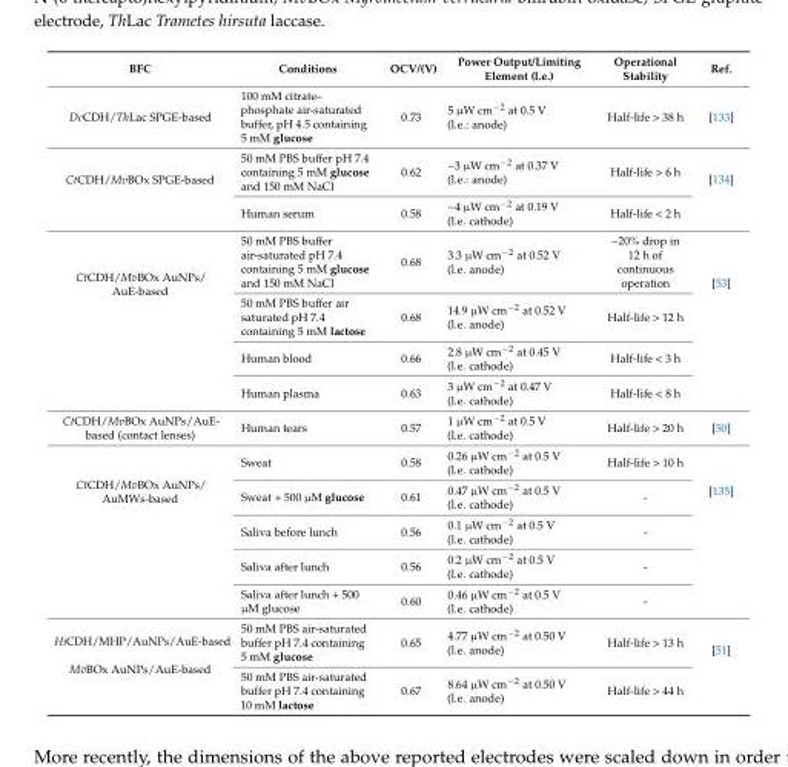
<table><thead><tr><td>BFC</td><td>Conditions</td><td>OCV/(V)</td><td>Power Output/Limiting Element (l.e.)</td><td>Operational Stability</td><td>Ref.</td></tr></thead><tbody><tr><td>DcCDH/ThLac SPGE-based</td><td>100 mM citrate– phosphate air-saturated buffer, pH 4.5 containing 5 mM glucose</td><td>0.73</td><td>5 µW cm<sup>−2</sup> at 0.5 V (l.e.: anode)</td><td>Half-life &gt; 38 h</td><td>[133]</td></tr><tr><td rowspan="2">CtCDH/MvBOx SPGE-based</td><td>50 mM PBS buffer pH 7.4 containing 5 mM glucose and 150 mM NaCl</td><td>0.62</td><td>~3 µW cm<sup>−2</sup> at 0.37 V (l.e.: anode)</td><td>Half-life &gt; 6 h</td><td rowspan="2">[134]</td></tr><tr><td>Human serum</td><td>0.58</td><td>~4 µW cm<sup>−2</sup> at 0.19 V (l.e. cathode)</td><td>Half-life &lt; 2 h</td></tr><tr><td rowspan="4">CtCDH/MvBOx AuNPs/ AuE-based</td><td>50 mM PBS buffer air-saturated pH 7.4 containing 5 mM glucose and 150 mM NaCl</td><td>0.68</td><td>3.3 µW cm<sup>−2</sup> at 0.52 V (l.e. anode)</td><td>~20% drop in 12 h of continuous operation</td><td rowspan="4">[53]</td></tr><tr><td>50 mM PBS buffer air saturated pH 7.4 containing 5 mM lactose</td><td>0.68</td><td>14.9 µW cm<sup>−2</sup> at 0.52 V (l.e. anode)</td><td>Half-life &gt; 12 h</td></tr><tr><td>Human blood</td><td>0.66</td><td>2.8 µW cm<sup>−2</sup> at 0.45 V (l.e. cathode)</td><td>Half-life &lt; 3 h</td></tr><tr><td>Human plasma</td><td>0.63</td><td>3 µW cm<sup>−2</sup> at 0.47 V (l.e. cathode)</td><td>Half-life &lt; 8 h</td></tr><tr><td>CtCDH/MvBOx AuNPs/AuE- based (contact lenses)</td><td>Human tears</td><td>0.57</td><td>1 µW cm<sup>−2</sup> at 0.5 V (l.e. cathode)</td><td>Half-life &gt; 20 h</td><td>[50]</td></tr><tr><td rowspan="5">CtCDH/MvBOx AuNPs/ AuMWs-based</td><td>Sweat</td><td>0.58</td><td>0.26 µW cm<sup>−2</sup> at 0.5 V (l.e. cathode)</td><td>Half-life &gt; 10 h</td><td rowspan="5">[135]</td></tr><tr><td>Sweat + 500 µM glucose</td><td>0.61</td><td>0.47 µW cm<sup>−2</sup> at 0.5 V (l.e. cathode)</td><td>-</td></tr><tr><td>Saliva before lunch</td><td>0.56</td><td>0.1 µW cm<sup>−2</sup> at 0.5 V (l.e. cathode)</td><td>-</td></tr><tr><td>Saliva after lunch</td><td>0.56</td><td>0.2 µW cm<sup>−2</sup> at 0.5 V (l.e. cathode)</td><td>-</td></tr><tr><td>Saliva after lunch + 500 µM glucose</td><td>0.60</td><td>0.46 µW cm<sup>−2</sup> at 0.5 V (l.e. cathode)</td><td>-</td></tr><tr><td rowspan="2">HiCDH/MHP/AuNPs/AuE-based MvBOx AuNPs/AuE-based</td><td>50 mM PBS air-saturated buffer pH 7.4 containing 5 mM glucose</td><td>0.65</td><td>4.77 µW cm<sup>−2</sup> at 0.50 V (l.e. anode)</td><td>Half-life &gt; 13 h</td><td rowspan="2">[51]</td></tr><tr><td>50 mM PBS air-saturated buffer pH 7.4 containing 10 mM lactose</td><td>0.67</td><td>8.64 µW cm<sup>−2</sup> at 0.50 V (l.e. anode)</td><td>Half-life &gt; 44 h</td></tr></tbody></table>